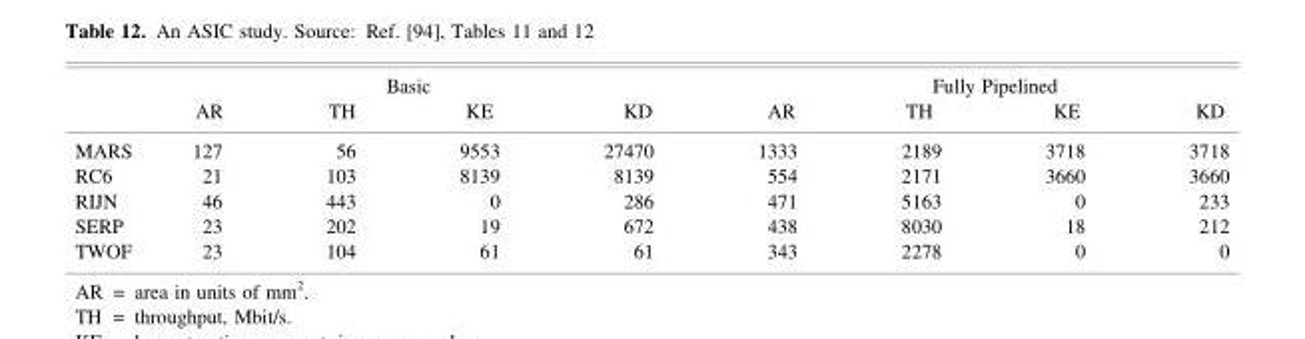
<table><thead><tr><td rowspan="2"></td><td colspan="4">Basic</td><td colspan="4">Fully Pipelined</td></tr><tr><td>AR</td><td>TH</td><td>KE</td><td>KD</td><td>AR</td><td>TH</td><td>KE</td><td>KD</td></tr></thead><tbody><tr><td>MARS</td><td>127</td><td>56</td><td>9553</td><td>27470</td><td>1333</td><td>2189</td><td>3718</td><td>3718</td></tr><tr><td>RC6</td><td>21</td><td>103</td><td>8139</td><td>8139</td><td>554</td><td>2171</td><td>3660</td><td>3660</td></tr><tr><td>RIJN</td><td>46</td><td>443</td><td>0</td><td>286</td><td>471</td><td>5163</td><td>0</td><td>233</td></tr><tr><td>SERP</td><td>23</td><td>202</td><td>19</td><td>672</td><td>438</td><td>8030</td><td>18</td><td>212</td></tr><tr><td>TWOF</td><td>23</td><td>104</td><td>61</td><td>61</td><td>343</td><td>2278</td><td>0</td><td>0</td></tr></tbody></table>